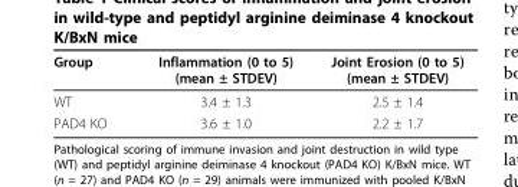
<table><thead><tr><td>Group</td><td>Inflammation (0 to 5) (mean ± STDEV)</td><td>Joint Erosion (0 to 5) (mean ± STDEV)</td></tr></thead><tbody><tr><td>WT</td><td>3.4 ± 1.3</td><td>2.5 ± 1.4</td></tr><tr><td>PAD4 KO</td><td>3.6 ± 1.0</td><td>2.2 ± 1.7</td></tr></tbody></table>